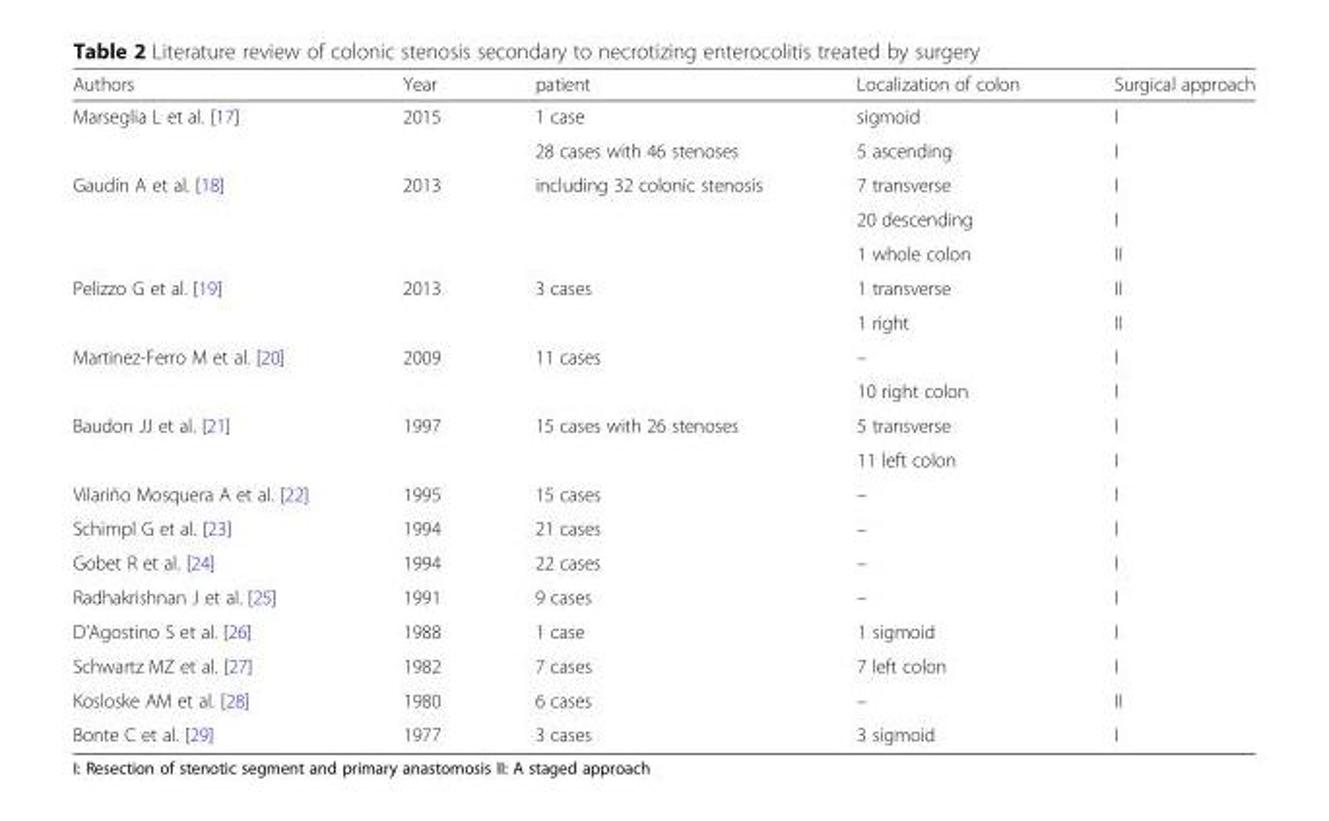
<table><thead><tr><td>Authors</td><td>Year</td><td>patient</td><td>Localization of colon</td><td>Surgical approach</td></tr></thead><tbody><tr><td rowspan="2">Marseglia L et al. [17]</td><td rowspan="2">2015</td><td>1 case</td><td>sigmoid</td><td>I</td></tr><tr><td>28 cases with 46 stenoses</td><td>5 ascending</td><td>I</td></tr><tr><td rowspan="3">Gaudin A et al. [18]</td><td rowspan="3">2013</td><td>including 32 colonic stenosis</td><td>7 transverse</td><td>I</td></tr><tr><td></td><td>20 descending</td><td>I</td></tr><tr><td></td><td>1 whole colon</td><td>II</td></tr><tr><td rowspan="2">Pelizzo G et al. [19]</td><td rowspan="2">2013</td><td>3 cases</td><td>1 transverse</td><td>II</td></tr><tr><td></td><td>1 right</td><td>II</td></tr><tr><td rowspan="2">Martinez-Ferro M et al. [20]</td><td rowspan="2">2009</td><td>11 cases</td><td>–</td><td>I</td></tr><tr><td></td><td>10 right colon</td><td>I</td></tr><tr><td rowspan="2">Baudon JJ et al. [21]</td><td rowspan="2">1997</td><td>15 cases with 26 stenoses</td><td>5 transverse</td><td>I</td></tr><tr><td></td><td>11 left colon</td><td>I</td></tr><tr><td>Vilariño Mosquera A et al. [22]</td><td>1995</td><td>15 cases</td><td>–</td><td>I</td></tr><tr><td>Schimpl G et al. [23]</td><td>1994</td><td>21 cases</td><td>–</td><td>I</td></tr><tr><td>Gobet R et al. [24]</td><td>1994</td><td>22 cases</td><td>–</td><td>I</td></tr><tr><td>Radhakrishnan J et al. [25]</td><td>1991</td><td>9 cases</td><td>–</td><td>I</td></tr><tr><td>D’Agostino S et al. [26]</td><td>1988</td><td>1 case</td><td>1 sigmoid</td><td>I</td></tr><tr><td>Schwartz MZ et al. [27]</td><td>1982</td><td>7 cases</td><td>7 left colon</td><td>I</td></tr><tr><td>Kosloske AM et al. [28]</td><td>1980</td><td>6 cases</td><td>–</td><td>II</td></tr><tr><td>Bonte C et al. [29]</td><td>1977</td><td>3 cases</td><td>3 sigmoid</td><td>I</td></tr></tbody></table>